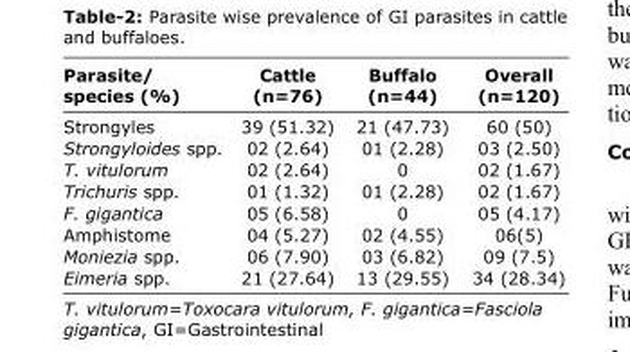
<table><thead><tr><td>Parasite/ species (%)</td><td>Cattle (n=76)</td><td>Buffalo (n=44)</td><td>Overall (n=120)</td></tr></thead><tbody><tr><td>Strongyles</td><td>39 (51.32)</td><td>21 (47.73)</td><td>60 (50)</td></tr><tr><td>Strongyloides spp.</td><td>02 (2.64)</td><td>01 (2.28)</td><td>03 (2.50)</td></tr><tr><td>T. vitulorum</td><td>02 (2.64)</td><td>0</td><td>02 (1.67)</td></tr><tr><td>Trichuris spp.</td><td>01 (1.32)</td><td>01 (2.28)</td><td>02 (1.67)</td></tr><tr><td>F. gigantica</td><td>05 (6.58)</td><td>0</td><td>05 (4.17)</td></tr><tr><td>Amphistome</td><td>04 (5.27)</td><td>02 (4.55)</td><td>06(5)</td></tr><tr><td>Moniezia spp.</td><td>06 (7.90)</td><td>03 (6.82)</td><td>09 (7.5)</td></tr><tr><td>Eimeria spp.</td><td>21 (27.64)</td><td>13 (29.55)</td><td>34 (28.34)</td></tr></tbody></table>